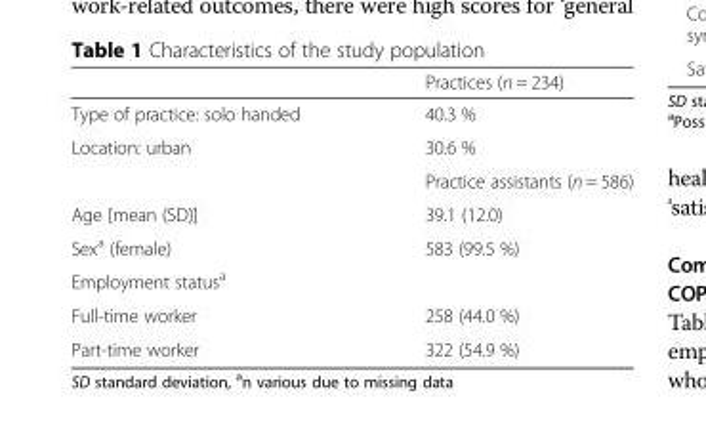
<table><thead><tr><td></td><td>Practices (n = 234)</td></tr></thead><tbody><tr><td>Type of practice: solo handed</td><td>40.3 %</td></tr><tr><td rowspan="2">Location: urban</td><td>30.6 %</td></tr><tr><td>Practice assistants (n = 586)</td></tr><tr><td>Age [mean (SD)]</td><td>39.1 (12.0)</td></tr><tr><td>Sex<sup>a</sup> (female)</td><td>583 (99.5 %)</td></tr><tr><td colspan="2">Employment status<sup>a</sup></td></tr><tr><td>Full-time worker</td><td>258 (44.0 %)</td></tr><tr><td>Part-time worker</td><td>322 (54.9 %)</td></tr></tbody></table>